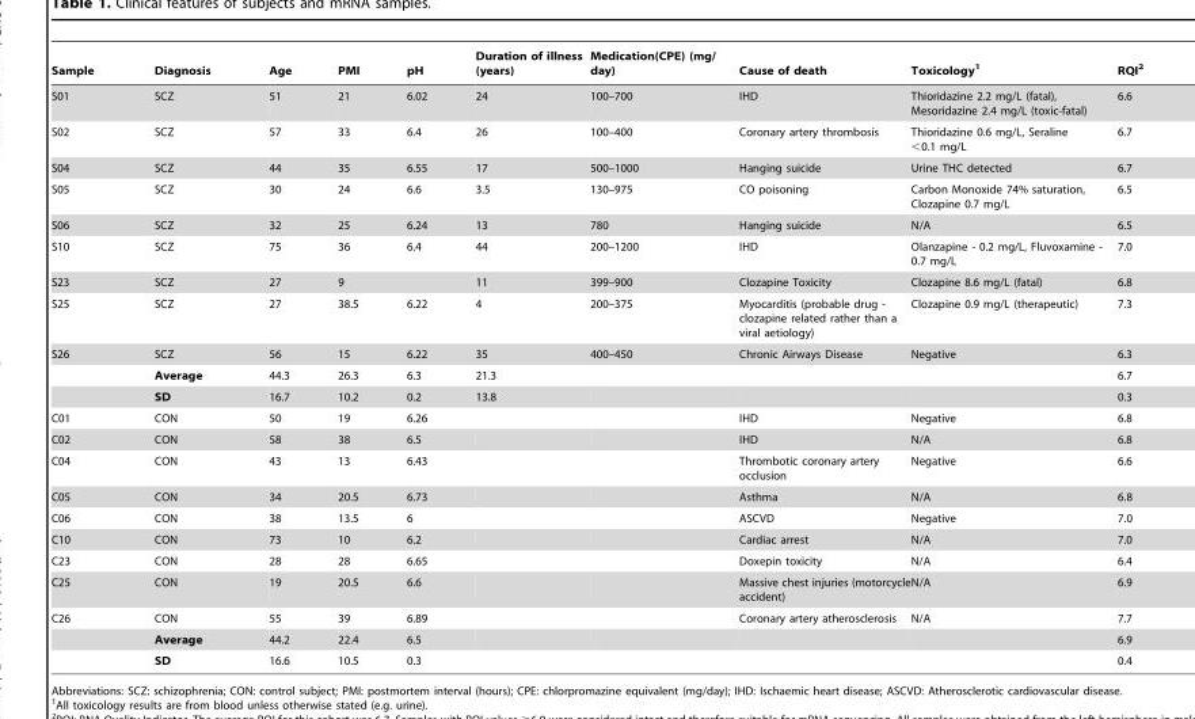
<table><thead><tr><td>Sample</td><td>Diagnosis</td><td>Age</td><td>PMI</td><td>pH</td><td>Duration of illness (years)</td><td>Medication(CPE) (mg/ day)</td><td>Cause of death</td><td>Toxicology<sup>1</sup></td><td>RQI<sup>2</sup></td></tr></thead><tbody><tr><td>S01</td><td>SCZ</td><td>51</td><td>21</td><td>6.02</td><td>24</td><td>100–700</td><td>IHD</td><td>Thioridazine 2.2 mg/L (fatal), Mesoridazine 2.4 mg/L (toxic-fatal)</td><td>6.6</td></tr><tr><td>S02</td><td>SCZ</td><td>57</td><td>33</td><td>6.4</td><td>26</td><td>100–400</td><td>Coronary artery thrombosis</td><td>Thioridazine 0.6 mg/L, Seraline &lt;0.1 mg/L</td><td>6.7</td></tr><tr><td>S04</td><td>SCZ</td><td>44</td><td>35</td><td>6.55</td><td>17</td><td>500–1000</td><td>Hanging suicide</td><td>Urine THC detected</td><td>6.7</td></tr><tr><td>S05</td><td>SCZ</td><td>30</td><td>24</td><td>6.6</td><td>3.5</td><td>130–975</td><td>CO poisoning</td><td>Carbon Monoxide 74% saturation, Clozapine 0.7 mg/L</td><td>6.5</td></tr><tr><td>S06</td><td>SCZ</td><td>32</td><td>25</td><td>6.24</td><td>13</td><td>780</td><td>Hanging suicide</td><td>N/A</td><td>6.5</td></tr><tr><td>S10</td><td>SCZ</td><td>75</td><td>36</td><td>6.4</td><td>44</td><td>200–1200</td><td>IHD</td><td>Olanzapine - 0.2 mg/L, Fluvoxamine - 0.7 mg/L</td><td>7.0</td></tr><tr><td>S23</td><td>SCZ</td><td>27</td><td>9</td><td></td><td>11</td><td>399–900</td><td>Clozapine Toxicity</td><td>Clozapine 8.6 mg/L (fatal)</td><td>6.8</td></tr><tr><td>S25</td><td>SCZ</td><td>27</td><td>38.5</td><td>6.22</td><td>4</td><td>200–375</td><td>Myocarditis (probable drug - clozapine related rather than a viral aetiology)</td><td>Clozapine 0.9 mg/L (therapeutic)</td><td>7.3</td></tr><tr><td rowspan="3">S26</td><td>SCZ</td><td>56</td><td>15</td><td>6.22</td><td>35</td><td>400–450</td><td>Chronic Airways Disease</td><td>Negative</td><td>6.3</td></tr><tr><td>Average</td><td>44.3</td><td>26.3</td><td>6.3</td><td>21.3</td><td></td><td></td><td></td><td>6.7</td></tr><tr><td>SD</td><td>16.7</td><td>10.2</td><td>0.2</td><td>13.8</td><td></td><td></td><td></td><td>0.3</td></tr><tr><td>C01</td><td>CON</td><td>50</td><td>19</td><td>6.26</td><td></td><td></td><td>IHD</td><td>Negative</td><td>6.8</td></tr><tr><td>C02</td><td>CON</td><td>58</td><td>38</td><td>6.5</td><td></td><td></td><td>IHD</td><td>N/A</td><td>6.8</td></tr><tr><td>C04</td><td>CON</td><td>43</td><td>13</td><td>6.43</td><td></td><td></td><td>Thrombotic coronary artery occlusion</td><td>Negative</td><td>6.6</td></tr><tr><td>C05</td><td>CON</td><td>34</td><td>20.5</td><td>6.73</td><td></td><td></td><td>Asthma</td><td>N/A</td><td>6.8</td></tr><tr><td>C06</td><td>CON</td><td>38</td><td>13.5</td><td>6</td><td></td><td></td><td>ASCVD</td><td>Negative</td><td>7.0</td></tr><tr><td>C10</td><td>CON</td><td>73</td><td>10</td><td>6.2</td><td></td><td></td><td>Cardiac arrest</td><td>N/A</td><td>7.0</td></tr><tr><td>C23</td><td>CON</td><td>28</td><td>28</td><td>6.65</td><td></td><td></td><td>Doxepin toxicity</td><td>N/A</td><td>6.4</td></tr><tr><td>C25</td><td>CON</td><td>19</td><td>20.5</td><td>6.6</td><td></td><td></td><td>Massive chest injuries (motorcycle accident)</td><td>N/A</td><td>6.9</td></tr><tr><td rowspan="3">C26</td><td>CON</td><td>55</td><td>39</td><td>6.89</td><td></td><td></td><td>Coronary artery atherosclerosis</td><td>N/A</td><td>7.7</td></tr><tr><td>Average</td><td>44.2</td><td>22.4</td><td>6.5</td><td></td><td></td><td></td><td></td><td>6.9</td></tr><tr><td>SD</td><td>16.6</td><td>10.5</td><td>0.3</td><td></td><td></td><td></td><td></td><td>0.4</td></tr></tbody></table>